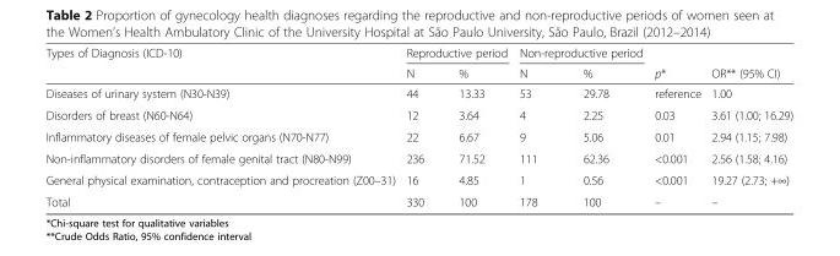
<table><thead><tr><td rowspan="2">Types of Diagnosis (ICD-10)</td><td colspan="2">Reproductive period</td><td colspan="2">Non-reproductive period</td><td rowspan="2">p*</td><td rowspan="2">OR** (95% CI)</td></tr><tr><td>N</td><td>%</td><td>N</td><td>%</td></tr></thead><tbody><tr><td>Diseases of urinary system (N30-N39)</td><td>44</td><td>13.33</td><td>53</td><td>29.78</td><td>reference</td><td>1.00</td></tr><tr><td>Disorders of breast (N60-N64)</td><td>12</td><td>3.64</td><td>4</td><td>2.25</td><td>0.03</td><td>3.61 (1.00; 16.29)</td></tr><tr><td>Inflammatory diseases of female pelvic organs (N70-N77)</td><td>22</td><td>6.67</td><td>9</td><td>5.06</td><td>0.01</td><td>2.94 (1.15; 7.98)</td></tr><tr><td>Non-inflammatory disorders of female genital tract (N80-N99)</td><td>236</td><td>71.52</td><td>111</td><td>62.36</td><td>&lt;0.001</td><td>2.56 (1.58; 4.16)</td></tr><tr><td>General physical examination, contraception and procreation (Z00–31)</td><td>16</td><td>4.85</td><td>1</td><td>0.56</td><td>&lt;0.001</td><td>19.27 (2.73; +∞)</td></tr><tr><td>Total</td><td>330</td><td>100</td><td>178</td><td>100</td><td>–</td><td>–</td></tr></tbody></table>